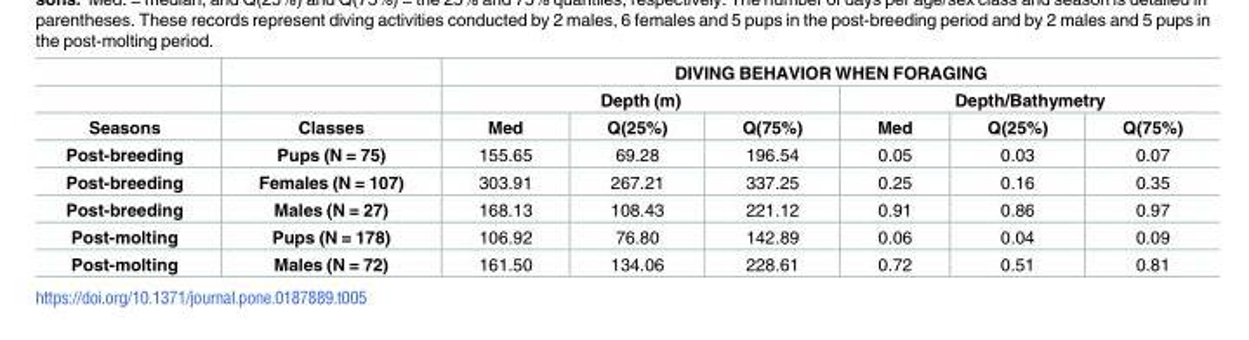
<table><thead><tr><td rowspan="3">Seasons</td><td rowspan="3">Classes</td><td colspan="6">DIVING BEHAVIOR WHEN FORAGING</td></tr><tr><td colspan="3">Depth (m)</td><td colspan="3">Depth/Bathymetry</td></tr><tr><td>Med</td><td>Q(25%)</td><td>Q(75%)</td><td>Med</td><td>Q(25%)</td><td>Q(75%)</td></tr></thead><tbody><tr><td>Post-breeding</td><td>Pups (N = 75)</td><td>155.65</td><td>69.28</td><td>196.54</td><td>0.05</td><td>0.03</td><td>0.07</td></tr><tr><td>Post-breeding</td><td>Females (N = 107)</td><td>303.91</td><td>267.21</td><td>337.25</td><td>0.25</td><td>0.16</td><td>0.35</td></tr><tr><td>Post-breeding</td><td>Males (N = 27)</td><td>168.13</td><td>108.43</td><td>221.12</td><td>0.91</td><td>0.86</td><td>0.97</td></tr><tr><td>Post-molting</td><td>Pups (N = 178)</td><td>106.92</td><td>76.80</td><td>142.89</td><td>0.06</td><td>0.04</td><td>0.09</td></tr><tr><td>Post-molting</td><td>Males (N = 72)</td><td>161.50</td><td>134.06</td><td>228.61</td><td>0.72</td><td>0.51</td><td>0.81</td></tr></tbody></table>